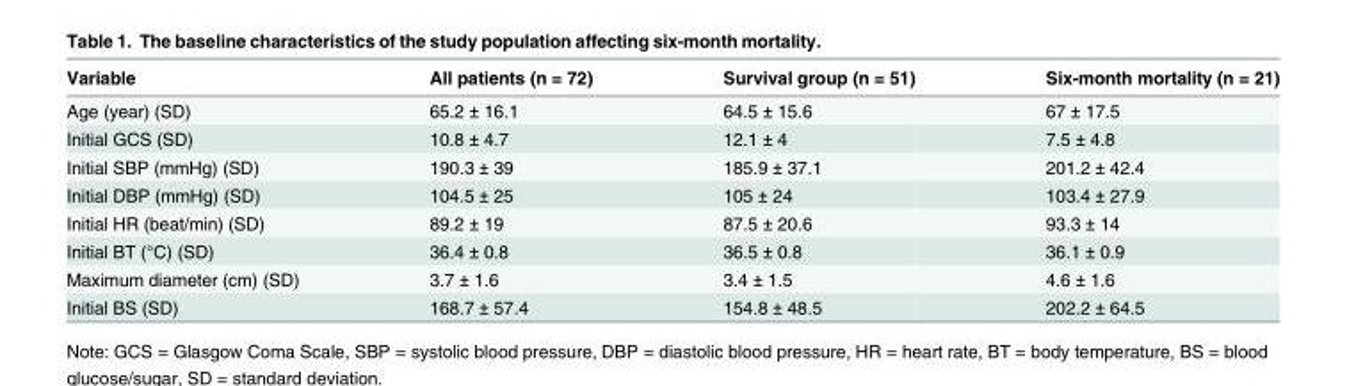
<table><thead><tr><td>Variable</td><td>All patients (n = 72)</td><td>Survival group (n = 51)</td><td>Six-month mortality (n = 21)</td></tr></thead><tbody><tr><td>Age (year) (SD)</td><td>65.2 ± 16.1</td><td>64.5 ± 15.6</td><td>67 ± 17.5</td></tr><tr><td>Initial GCS (SD)</td><td>10.8 ± 4.7</td><td>12.1 ± 4</td><td>7.5 ± 4.8</td></tr><tr><td>Initial SBP (mmHg) (SD)</td><td>190.3 ± 39</td><td>185.9 ± 37.1</td><td>201.2 ± 42.4</td></tr><tr><td>Initial DBP (mmHg) (SD)</td><td>104.5 ± 25</td><td>105 ± 24</td><td>103.4 ± 27.9</td></tr><tr><td>Initial HR (beat/min) (SD)</td><td>89.2 ± 19</td><td>87.5 ± 20.6</td><td>93.3 ± 14</td></tr><tr><td>Initial BT (°C) (SD)</td><td>36.4 ± 0.8</td><td>36.5 ± 0.8</td><td>36.1 ± 0.9</td></tr><tr><td>Maximum diameter (cm) (SD)</td><td>3.7 ± 1.6</td><td>3.4 ± 1.5</td><td>4.6 ± 1.6</td></tr><tr><td>Initial BS (SD)</td><td>168.7 ± 57.4</td><td>154.8 ± 48.5</td><td>202.2 ± 64.5</td></tr></tbody></table>